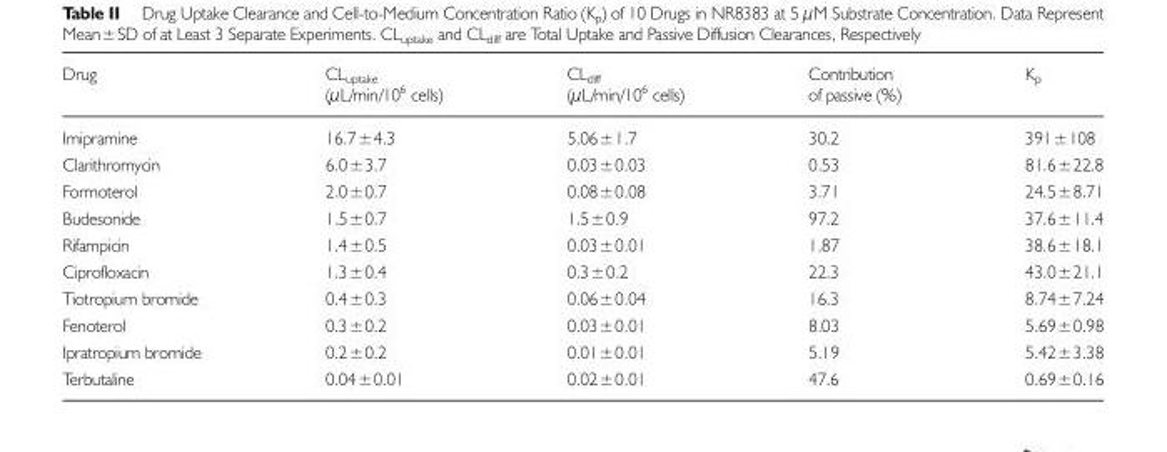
<table><thead><tr><td>Drug</td><td>CL<sub>uptake</sub> (μL/min/10<sup>6</sup> cells)</td><td>CL<sub>diff</sub> (μL/min/10<sup>6</sup> cells)</td><td>Contribution of passive (%)</td><td>K<sub>p</sub></td></tr></thead><tbody><tr><td>Imipramine</td><td>16.7±4.3</td><td>5.06±1.7</td><td>30.2</td><td>391±108</td></tr><tr><td>Clarithromycin</td><td>6.0±3.7</td><td>0.03±0.03</td><td>0.53</td><td>81.6±22.8</td></tr><tr><td>Formoterol</td><td>2.0±0.7</td><td>0.08±0.08</td><td>3.71</td><td>24.5±8.71</td></tr><tr><td>Budesonide</td><td>1.5±0.7</td><td>1.5±0.9</td><td>97.2</td><td>37.6±11.4</td></tr><tr><td>Rifampicin</td><td>1.4±0.5</td><td>0.03±0.01</td><td>1.87</td><td>38.6±18.1</td></tr><tr><td>Ciprofloxacin</td><td>1.3±0.4</td><td>0.3±0.2</td><td>22.3</td><td>43.0±21.1</td></tr><tr><td>Tiotropium bromide</td><td>0.4±0.3</td><td>0.06±0.04</td><td>16.3</td><td>8.74±7.24</td></tr><tr><td>Fenoterol</td><td>0.3±0.2</td><td>0.03±0.01</td><td>8.03</td><td>5.69±0.98</td></tr><tr><td>Ipratropium bromide</td><td>0.2±0.2</td><td>0.01±0.01</td><td>5.19</td><td>5.42±3.38</td></tr><tr><td>Terbutaline</td><td>0.04±0.01</td><td>0.02±0.01</td><td>47.6</td><td>0.69±0.16</td></tr></tbody></table>